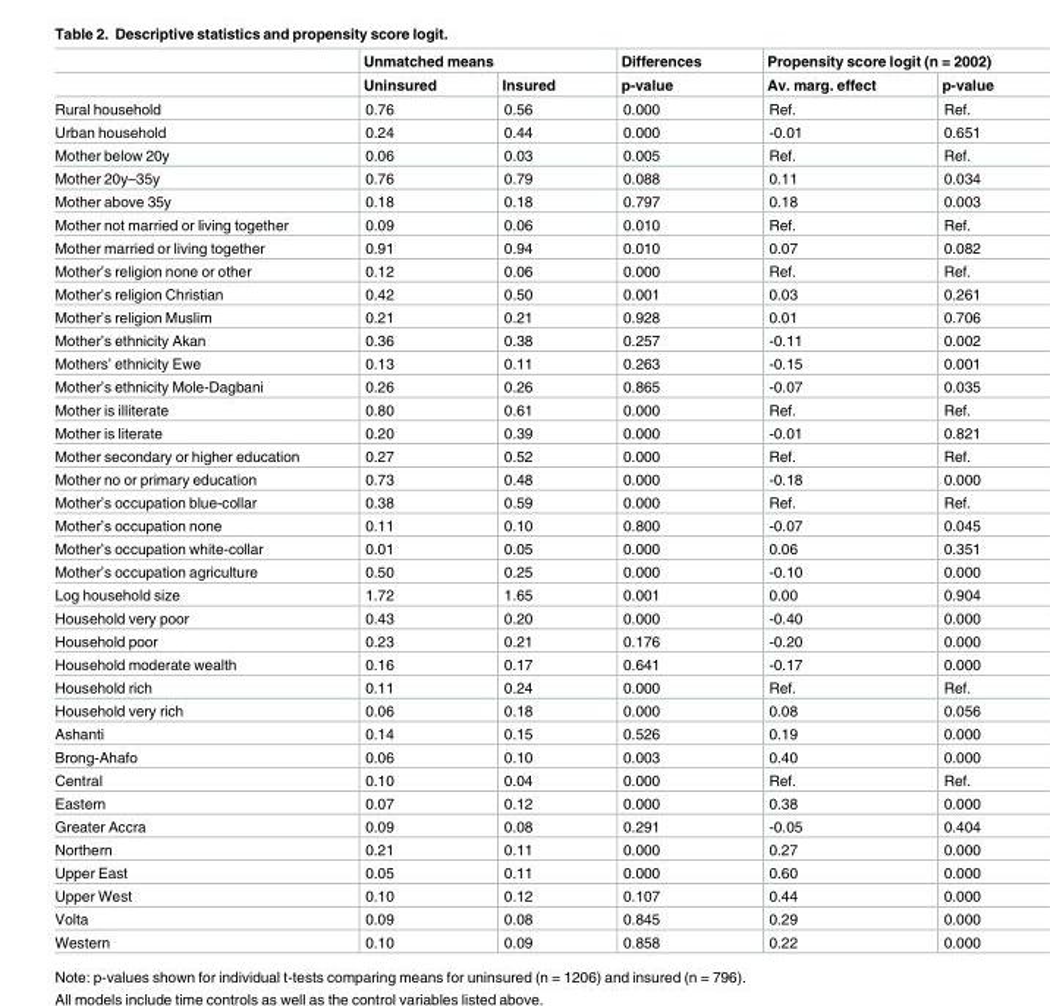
<table><thead><tr><td rowspan="2"></td><td colspan="2">Unmatched means</td><td rowspan="2">Differences p-value</td><td colspan="2">Propensity score logit (n = 2002)</td></tr><tr><td>Uninsured</td><td>Insured</td><td>Av. marg. effect</td><td>p-value</td></tr></thead><tbody><tr><td>Rural household</td><td>0.76</td><td>0.56</td><td>0.000</td><td>Ref.</td><td>Ref.</td></tr><tr><td>Urban household</td><td>0.24</td><td>0.44</td><td>0.000</td><td>-0.01</td><td>0.651</td></tr><tr><td>Mother below 20y</td><td>0.06</td><td>0.03</td><td>0.005</td><td>Ref.</td><td>Ref.</td></tr><tr><td>Mother 20y–35y</td><td>0.76</td><td>0.79</td><td>0.088</td><td>0.11</td><td>0.034</td></tr><tr><td>Mother above 35y</td><td>0.18</td><td>0.18</td><td>0.797</td><td>0.18</td><td>0.003</td></tr><tr><td>Mother not married or living together</td><td>0.09</td><td>0.06</td><td>0.010</td><td>Ref.</td><td>Ref.</td></tr><tr><td>Mother married or living together</td><td>0.91</td><td>0.94</td><td>0.010</td><td>0.07</td><td>0.082</td></tr><tr><td>Mother’s religion none or other</td><td>0.12</td><td>0.06</td><td>0.000</td><td>Ref.</td><td>Ref.</td></tr><tr><td>Mother’s religion Christian</td><td>0.42</td><td>0.50</td><td>0.001</td><td>0.03</td><td>0.261</td></tr><tr><td>Mother’s religion Muslim</td><td>0.21</td><td>0.21</td><td>0.928</td><td>0.01</td><td>0.706</td></tr><tr><td>Mother’s ethnicity Akan</td><td>0.36</td><td>0.38</td><td>0.257</td><td>-0.11</td><td>0.002</td></tr><tr><td>Mothers’ ethnicity Ewe</td><td>0.13</td><td>0.11</td><td>0.263</td><td>-0.15</td><td>0.001</td></tr><tr><td>Mother’s ethnicity Mole-Dagbani</td><td>0.26</td><td>0.26</td><td>0.865</td><td>-0.07</td><td>0.035</td></tr><tr><td>Mother is illiterate</td><td>0.80</td><td>0.61</td><td>0.000</td><td>Ref.</td><td>Ref.</td></tr><tr><td>Mother is literate</td><td>0.20</td><td>0.39</td><td>0.000</td><td>-0.01</td><td>0.821</td></tr><tr><td>Mother secondary or higher education</td><td>0.27</td><td>0.52</td><td>0.000</td><td>Ref.</td><td>Ref.</td></tr><tr><td>Mother no or primary education</td><td>0.73</td><td>0.48</td><td>0.000</td><td>-0.18</td><td>0.000</td></tr><tr><td>Mother’s occupation blue-collar</td><td>0.38</td><td>0.59</td><td>0.000</td><td>Ref.</td><td>Ref.</td></tr><tr><td>Mother’s occupation none</td><td>0.11</td><td>0.10</td><td>0.800</td><td>-0.07</td><td>0.045</td></tr><tr><td>Mother’s occupation white-collar</td><td>0.01</td><td>0.05</td><td>0.000</td><td>0.06</td><td>0.351</td></tr><tr><td>Mother’s occupation agriculture</td><td>0.50</td><td>0.25</td><td>0.000</td><td>-0.10</td><td>0.000</td></tr><tr><td>Log household size</td><td>1.72</td><td>1.65</td><td>0.001</td><td>0.00</td><td>0.904</td></tr><tr><td>Household very poor</td><td>0.43</td><td>0.20</td><td>0.000</td><td>-0.40</td><td>0.000</td></tr><tr><td>Household poor</td><td>0.23</td><td>0.21</td><td>0.176</td><td>-0.20</td><td>0.000</td></tr><tr><td>Household moderate wealth</td><td>0.16</td><td>0.17</td><td>0.641</td><td>-0.17</td><td>0.000</td></tr><tr><td>Household rich</td><td>0.11</td><td>0.24</td><td>0.000</td><td>Ref.</td><td>Ref.</td></tr><tr><td>Household very rich</td><td>0.06</td><td>0.18</td><td>0.000</td><td>0.08</td><td>0.056</td></tr><tr><td>Ashanti</td><td>0.14</td><td>0.15</td><td>0.526</td><td>0.19</td><td>0.000</td></tr><tr><td>Brong-Ahafo</td><td>0.06</td><td>0.10</td><td>0.003</td><td>0.40</td><td>0.000</td></tr><tr><td>Central</td><td>0.10</td><td>0.04</td><td>0.000</td><td>Ref.</td><td>Ref.</td></tr><tr><td>Eastern</td><td>0.07</td><td>0.12</td><td>0.000</td><td>0.38</td><td>0.000</td></tr><tr><td>Greater Accra</td><td>0.09</td><td>0.08</td><td>0.291</td><td>-0.05</td><td>0.404</td></tr><tr><td>Northern</td><td>0.21</td><td>0.11</td><td>0.000</td><td>0.27</td><td>0.000</td></tr><tr><td>Upper East</td><td>0.05</td><td>0.11</td><td>0.000</td><td>0.60</td><td>0.000</td></tr><tr><td>Upper West</td><td>0.10</td><td>0.12</td><td>0.107</td><td>0.44</td><td>0.000</td></tr><tr><td>Volta</td><td>0.09</td><td>0.08</td><td>0.845</td><td>0.29</td><td>0.000</td></tr><tr><td>Western</td><td>0.10</td><td>0.09</td><td>0.858</td><td>0.22</td><td>0.000</td></tr></tbody></table>